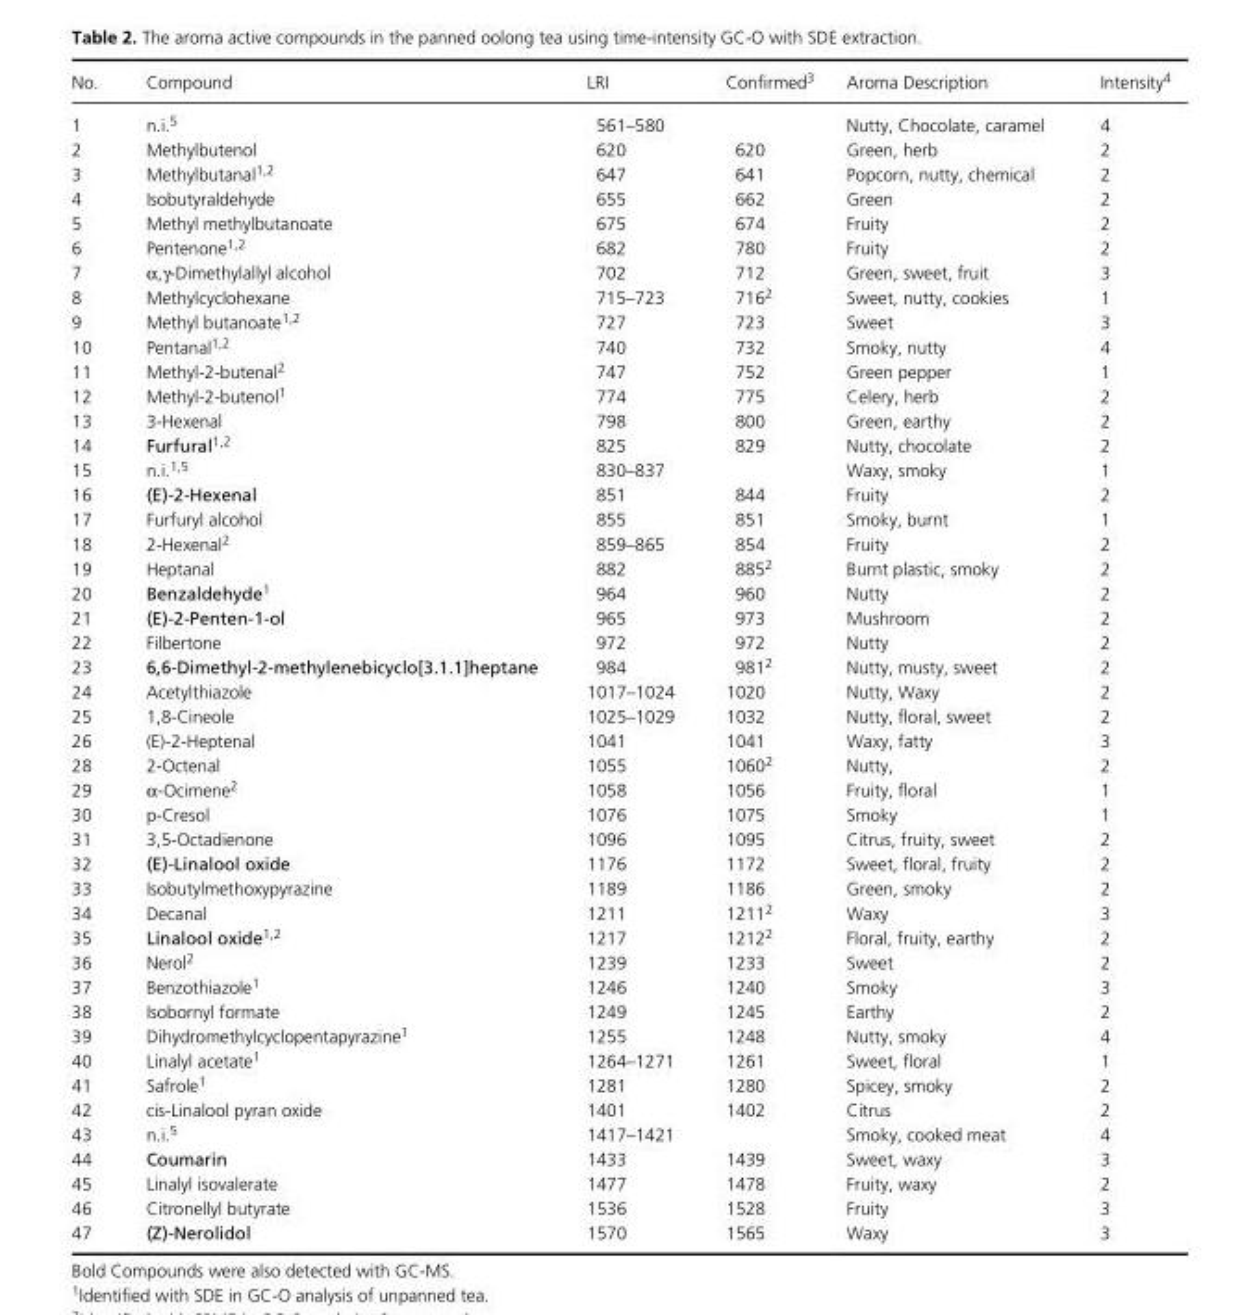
<table><thead><tr><td>No.</td><td>Compound</td><td>LRI</td><td>Confirmed3</td><td>Aroma Description</td><td>Intensity4</td></tr></thead><tbody><tr><td>1</td><td>n.i.5</td><td>561–580</td><td></td><td>Nutty, Chocolate, caramel</td><td>4</td></tr><tr><td>2</td><td>Methylbutenol</td><td>620</td><td>620</td><td>Green, herb</td><td>2</td></tr><tr><td>3</td><td>Methylbutanal1,2</td><td>647</td><td>641</td><td>Popcorn, nutty, chemical</td><td>2</td></tr><tr><td>4</td><td>Isobutyraldehyde</td><td>655</td><td>662</td><td>Green</td><td>2</td></tr><tr><td>5</td><td>Methyl methylbutanoate</td><td>675</td><td>674</td><td>Fruity</td><td>2</td></tr><tr><td>6</td><td>Pentenone1,2</td><td>682</td><td>780</td><td>Fruity</td><td>2</td></tr><tr><td>7</td><td>α,γ- Dimethylallyl alcohol</td><td>702</td><td>712</td><td>Green, sweet, fruit</td><td>3</td></tr><tr><td>8</td><td>Methylcyclohexane</td><td>715–723</td><td>7162</td><td>Sweet, nutty, cookies</td><td>1</td></tr><tr><td>9</td><td>Methyl butanoate1,2</td><td>727</td><td>723</td><td>Sweet</td><td>3</td></tr><tr><td>10</td><td>Pentanal1,2</td><td>740</td><td>732</td><td>Smoky, nutty</td><td>4</td></tr><tr><td>11</td><td>Methyl- 2- butenal2</td><td>747</td><td>752</td><td>Green pepper</td><td>1</td></tr><tr><td>12</td><td>Methyl- 2- butenol1</td><td>774</td><td>775</td><td>Celery, herb</td><td>2</td></tr><tr><td>13</td><td>3- Hexenal</td><td>798</td><td>800</td><td>Green, earthy</td><td>2</td></tr><tr><td>14</td><td>Furfural1,2</td><td>825</td><td>829</td><td>Nutty, chocolate</td><td>2</td></tr><tr><td>15</td><td>n.i.1,5</td><td>830–837</td><td></td><td>Waxy, smoky</td><td>1</td></tr><tr><td>16</td><td>(E)-2-Hexenal</td><td>851</td><td>844</td><td>Fruity</td><td>2</td></tr><tr><td>17</td><td>Furfuryl alcohol</td><td>855</td><td>851</td><td>Smoky, burnt</td><td>1</td></tr><tr><td>18</td><td>2- Hexenal2</td><td>859–865</td><td>854</td><td>Fruity</td><td>2</td></tr><tr><td>19</td><td>Heptanal</td><td>882</td><td>8852</td><td>Burnt plastic, smoky</td><td>2</td></tr><tr><td>20</td><td>Benzaldehyde1</td><td>964</td><td>960</td><td>Nutty</td><td>2</td></tr><tr><td>21</td><td>(E)-2-Penten-1-ol</td><td>965</td><td>973</td><td>Mushroom</td><td>2</td></tr><tr><td>22</td><td>Filbertone</td><td>972</td><td>972</td><td>Nutty</td><td>2</td></tr><tr><td>23</td><td>6,6-Dimethyl-2-methylenebicyclo[3.1.1]heptane</td><td>984</td><td>9812</td><td>Nutty, musty, sweet</td><td>2</td></tr><tr><td>24</td><td>Acetylthiazole</td><td>1017–1024</td><td>1020</td><td>Nutty, Waxy</td><td>2</td></tr><tr><td>25</td><td>1,8- Cineole</td><td>1025–1029</td><td>1032</td><td>Nutty, floral, sweet</td><td>2</td></tr><tr><td>26</td><td>(E)- 2- Heptenal</td><td>1041</td><td>1041</td><td>Waxy, fatty</td><td>3</td></tr><tr><td>28</td><td>2- Octenal</td><td>1055</td><td>10602</td><td>Nutty,</td><td>2</td></tr><tr><td>29</td><td>α- Ocimene2</td><td>1058</td><td>1056</td><td>Fruity, floral</td><td>1</td></tr><tr><td>30</td><td>p- Cresol</td><td>1076</td><td>1075</td><td>Smoky</td><td>1</td></tr><tr><td>31</td><td>3,5- Octadienone</td><td>1096</td><td>1095</td><td>Citrus, fruity, sweet</td><td>2</td></tr><tr><td>32</td><td>(E)-Linalool oxide</td><td>1176</td><td>1172</td><td>Sweet, floral, fruity</td><td>2</td></tr><tr><td>33</td><td>Isobutylmethoxypyrazine</td><td>1189</td><td>1186</td><td>Green, smoky</td><td>2</td></tr><tr><td>34</td><td>Decanal</td><td>1211</td><td>12112</td><td>Waxy</td><td>3</td></tr><tr><td>35</td><td>Linalool oxide1,2</td><td>1217</td><td>12122</td><td>Floral, fruity, earthy</td><td>2</td></tr><tr><td>36</td><td>Nerol2</td><td>1239</td><td>1233</td><td>Sweet</td><td>2</td></tr><tr><td>37</td><td>Benzothiazole1</td><td>1246</td><td>1240</td><td>Smoky</td><td>3</td></tr><tr><td>38</td><td>Isobornyl formate</td><td>1249</td><td>1245</td><td>Earthy</td><td>2</td></tr><tr><td>39</td><td>Dihydromethylcyclopentapyrazine1</td><td>1255</td><td>1248</td><td>Nutty, smoky</td><td>4</td></tr><tr><td>40</td><td>Linalyl acetate1</td><td>1264–1271</td><td>1261</td><td>Sweet, floral</td><td>1</td></tr><tr><td>41</td><td>Safrole1</td><td>1281</td><td>1280</td><td>Spicey, smoky</td><td>2</td></tr><tr><td>42</td><td>cis- Linalool pyran oxide</td><td>1401</td><td>1402</td><td>Citrus</td><td>2</td></tr><tr><td>43</td><td>n.i.5</td><td>1417–1421</td><td></td><td>Smoky, cooked meat</td><td>4</td></tr><tr><td>44</td><td>Coumarin</td><td>1433</td><td>1439</td><td>Sweet, waxy</td><td>3</td></tr><tr><td>45</td><td>Linalyl isovalerate</td><td>1477</td><td>1478</td><td>Fruity, waxy</td><td>2</td></tr><tr><td>46</td><td>Citronellyl butyrate</td><td>1536</td><td>1528</td><td>Fruity</td><td>3</td></tr><tr><td>47</td><td>(Z)-Nerolidol</td><td>1570</td><td>1565</td><td>Waxy</td><td>3</td></tr></tbody></table>